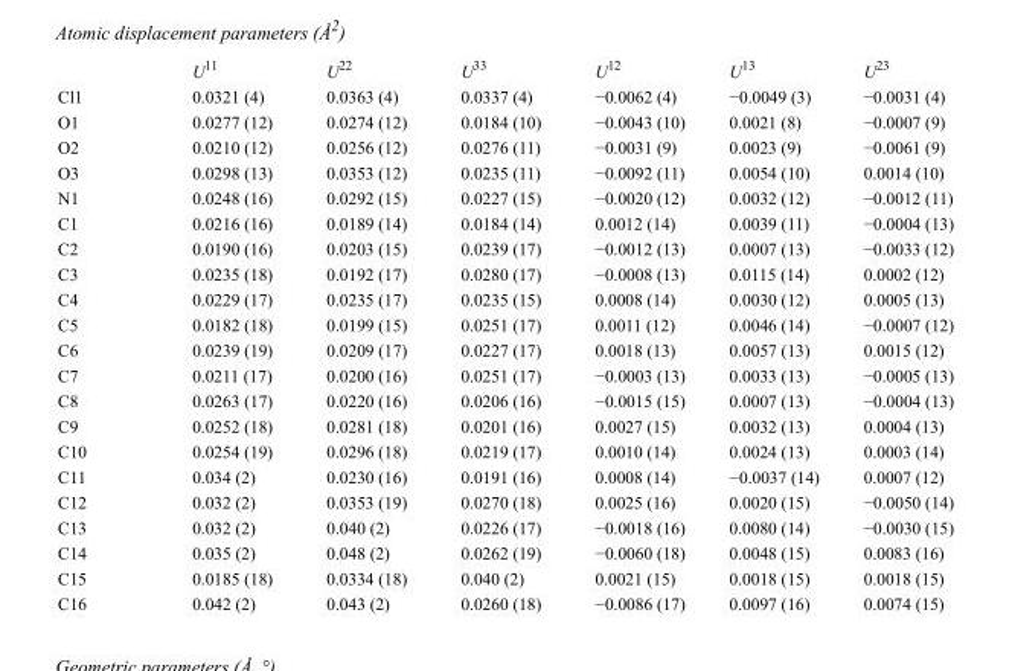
<table><thead><tr><td></td><td>U<sup>11</sup></td><td>U<sup>22</sup></td><td>U<sup>33</sup></td><td>U<sup>12</sup></td><td>U<sup>13</sup></td><td>U<sup>23</sup></td></tr></thead><tbody><tr><td>Cl1</td><td>0.0321 (4)</td><td>0.0363 (4)</td><td>0.0337 (4)</td><td>−0.0062 (4)</td><td>−0.0049 (3)</td><td>−0.0031 (4)</td></tr><tr><td>O1</td><td>0.0277 (12)</td><td>0.0274 (12)</td><td>0.0184 (10)</td><td>−0.0043 (10)</td><td>0.0021 (8)</td><td>−0.0007 (9)</td></tr><tr><td>O2</td><td>0.0210 (12)</td><td>0.0256 (12)</td><td>0.0276 (11)</td><td>−0.0031 (9)</td><td>0.0023 (9)</td><td>−0.0061 (9)</td></tr><tr><td>O3</td><td>0.0298 (13)</td><td>0.0353 (12)</td><td>0.0235 (11)</td><td>−0.0092 (11)</td><td>0.0054 (10)</td><td>0.0014 (10)</td></tr><tr><td>N1</td><td>0.0248 (16)</td><td>0.0292 (15)</td><td>0.0227 (15)</td><td>−0.0020 (12)</td><td>0.0032 (12)</td><td>−0.0012 (11)</td></tr><tr><td>C1</td><td>0.0216 (16)</td><td>0.0189 (14)</td><td>0.0184 (14)</td><td>0.0012 (14)</td><td>0.0039 (11)</td><td>−0.0004 (13)</td></tr><tr><td>C2</td><td>0.0190 (16)</td><td>0.0203 (15)</td><td>0.0239 (17)</td><td>−0.0012 (13)</td><td>0.0007 (13)</td><td>−0.0033 (12)</td></tr><tr><td>C3</td><td>0.0235 (18)</td><td>0.0192 (17)</td><td>0.0280 (17)</td><td>−0.0008 (13)</td><td>0.0115 (14)</td><td>0.0002 (12)</td></tr><tr><td>C4</td><td>0.0229 (17)</td><td>0.0235 (17)</td><td>0.0235 (15)</td><td>0.0008 (14)</td><td>0.0030 (12)</td><td>0.0005 (13)</td></tr><tr><td>C5</td><td>0.0182 (18)</td><td>0.0199 (15)</td><td>0.0251 (17)</td><td>0.0011 (12)</td><td>0.0046 (14)</td><td>−0.0007 (12)</td></tr><tr><td>C6</td><td>0.0239 (19)</td><td>0.0209 (17)</td><td>0.0227 (17)</td><td>0.0018 (13)</td><td>0.0057 (13)</td><td>0.0015 (12)</td></tr><tr><td>C7</td><td>0.0211 (17)</td><td>0.0200 (16)</td><td>0.0251 (17)</td><td>−0.0003 (13)</td><td>0.0033 (13)</td><td>−0.0005 (13)</td></tr><tr><td>C8</td><td>0.0263 (17)</td><td>0.0220 (16)</td><td>0.0206 (16)</td><td>−0.0015 (15)</td><td>0.0007 (13)</td><td>−0.0004 (13)</td></tr><tr><td>C9</td><td>0.0252 (18)</td><td>0.0281 (18)</td><td>0.0201 (16)</td><td>0.0027 (15)</td><td>0.0032 (13)</td><td>0.0004 (13)</td></tr><tr><td>C10</td><td>0.0254 (19)</td><td>0.0296 (18)</td><td>0.0219 (17)</td><td>0.0010 (14)</td><td>0.0024 (13)</td><td>0.0003 (14)</td></tr><tr><td>C11</td><td>0.034 (2)</td><td>0.0230 (16)</td><td>0.0191 (16)</td><td>0.0008 (14)</td><td>−0.0037 (14)</td><td>0.0007 (12)</td></tr><tr><td>C12</td><td>0.032 (2)</td><td>0.0353 (19)</td><td>0.0270 (18)</td><td>0.0025 (16)</td><td>0.0020 (15)</td><td>−0.0050 (14)</td></tr><tr><td>C13</td><td>0.032 (2)</td><td>0.040 (2)</td><td>0.0226 (17)</td><td>−0.0018 (16)</td><td>0.0080 (14)</td><td>−0.0030 (15)</td></tr><tr><td>C14</td><td>0.035 (2)</td><td>0.048 (2)</td><td>0.0262 (19)</td><td>−0.0060 (18)</td><td>0.0048 (15)</td><td>0.0083 (16)</td></tr><tr><td>C15</td><td>0.0185 (18)</td><td>0.0334 (18)</td><td>0.040 (2)</td><td>0.0021 (15)</td><td>0.0018 (15)</td><td>0.0018 (15)</td></tr><tr><td>C16</td><td>0.042 (2)</td><td>0.043 (2)</td><td>0.0260 (18)</td><td>−0.0086 (17)</td><td>0.0097 (16)</td><td>0.0074 (15)</td></tr></tbody></table>